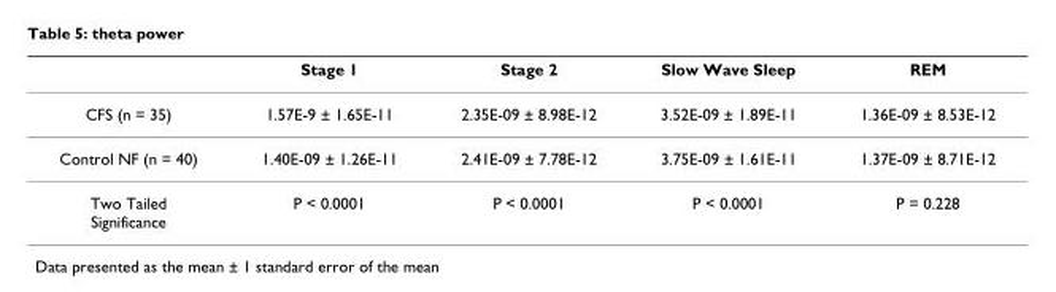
<table><thead><tr><td></td><td>Stage 1</td><td>Stage 2</td><td>Slow Wave Sleep</td><td>REM</td></tr></thead><tbody><tr><td>CFS (n = 35)</td><td>1.57E-9 ± 1.65E-11</td><td>2.35E-09 ± 8.98E-12</td><td>3.52E-09 ± 1.89E-11</td><td>1.36E-09 ± 8.53E-12</td></tr><tr><td>Control NF (n = 40)</td><td>1.40E-09 ± 1.26E-11</td><td>2.41E-09 ± 7.78E-12</td><td>3.75E-09 ± 1.61E-11</td><td>1.37E-09 ± 8.71E-12</td></tr><tr><td>Two Tailed Significance</td><td>P &lt; 0.0001</td><td>P &lt; 0.0001</td><td>P &lt; 0.0001</td><td>P = 0.228</td></tr></tbody></table>